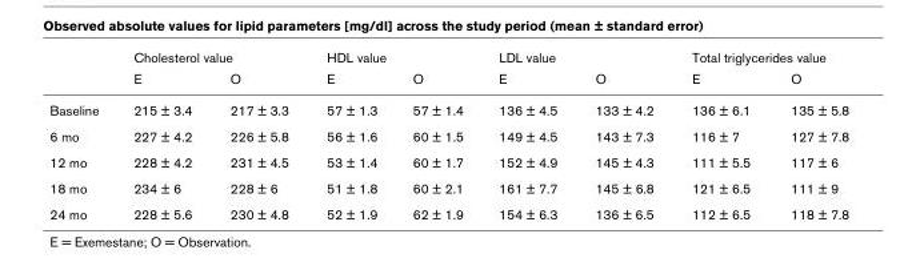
<table><thead><tr><td rowspan="2"></td><td colspan="2">Cholesterol value</td><td colspan="2">HDL value</td><td colspan="2">LDL value</td><td colspan="2">Total triglycerides value</td></tr><tr><td>E</td><td>O</td><td>E</td><td>O</td><td>E</td><td>O</td><td>E</td><td>O</td></tr></thead><tbody><tr><td>Baseline</td><td>215 ± 3.4</td><td>217 ± 3.3</td><td>57 ± 1.3</td><td>57 ± 1.4</td><td>136 ± 4.5</td><td>133 ± 4.2</td><td>136 ± 6.1</td><td>135 ± 5.8</td></tr><tr><td>6 mo</td><td>227 ± 4.2</td><td>226 ± 5.8</td><td>56 ± 1.6</td><td>60 ± 1.5</td><td>149 ± 4.5</td><td>143 ± 7.3</td><td>116 ± 7</td><td>127 ± 7.8</td></tr><tr><td>12 mo</td><td>228 ± 4.2</td><td>231 ± 4.5</td><td>53 ± 1.4</td><td>60 ± 1.7</td><td>152 ± 4.9</td><td>145 ± 4.3</td><td>111 ± 5.5</td><td>117 ± 6</td></tr><tr><td>18 mo</td><td>234 ± 6</td><td>228 ± 6</td><td>51 ± 1.8</td><td>60 ± 2.1</td><td>161 ± 7.7</td><td>145 ± 6.8</td><td>121 ± 6.5</td><td>111 ± 9</td></tr><tr><td>24 mo</td><td>228 ± 5.6</td><td>230 ± 4.8</td><td>52 ± 1.9</td><td>62 ± 1.9</td><td>154 ± 6.3</td><td>136 ± 6.5</td><td>112 ± 6.5</td><td>118 ± 7.8</td></tr></tbody></table>